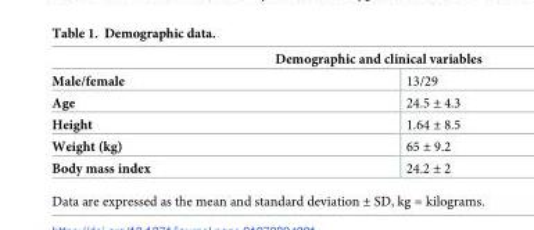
<table><thead><tr><td colspan="2">Demographic and clinical variables</td></tr><tr><td>Male/female</td><td>13/29</td></tr></thead><tbody><tr><td>Age</td><td>24.5 ± 4.3</td></tr><tr><td>Height</td><td>1.64 ± 8.5</td></tr><tr><td>Weight (kg)</td><td>65 ± 9.2</td></tr><tr><td>Body mass index</td><td>24.2 ± 2</td></tr></tbody></table>